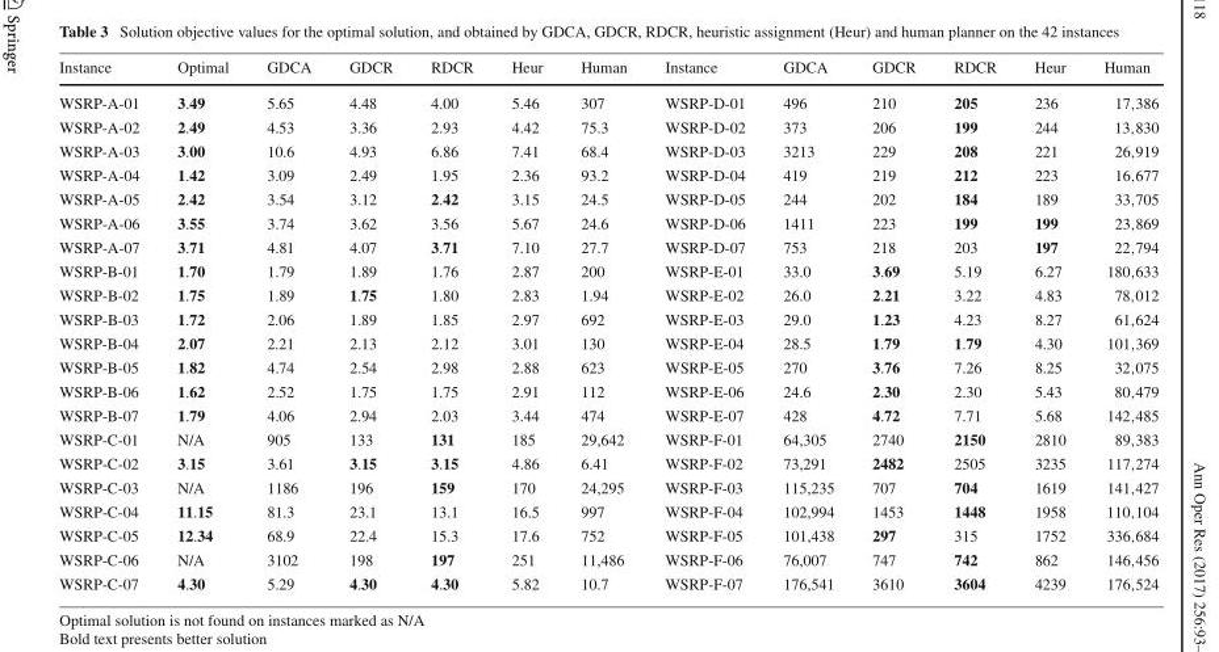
<table><thead><tr><td>Instance</td><td>Optimal</td><td>GDCA</td><td>GDCR</td><td>RDCR</td><td>Heur</td><td>Human</td><td>Instance</td><td>GDCA</td><td>GDCR</td><td>RDCR</td><td>Heur</td><td>Human</td></tr></thead><tbody><tr><td>WSRP-A-01</td><td>3.49</td><td>5.65</td><td>4.48</td><td>4.00</td><td>5.46</td><td>307</td><td>WSRP-D-01</td><td>496</td><td>210</td><td>205</td><td>236</td><td>17,386</td></tr><tr><td>WSRP-A-02</td><td>2.49</td><td>4.53</td><td>3.36</td><td>2.93</td><td>4.42</td><td>75.3</td><td>WSRP-D-02</td><td>373</td><td>206</td><td>199</td><td>244</td><td>13,830</td></tr><tr><td>WSRP-A-03</td><td>3.00</td><td>10.6</td><td>4.93</td><td>6.86</td><td>7.41</td><td>68.4</td><td>WSRP-D-03</td><td>3213</td><td>229</td><td>208</td><td>221</td><td>26,919</td></tr><tr><td>WSRP-A-04</td><td>1.42</td><td>3.09</td><td>2.49</td><td>1.95</td><td>2.36</td><td>93.2</td><td>WSRP-D-04</td><td>419</td><td>219</td><td>212</td><td>223</td><td>16,677</td></tr><tr><td>WSRP-A-05</td><td>2.42</td><td>3.54</td><td>3.12</td><td>2.42</td><td>3.15</td><td>24.5</td><td>WSRP-D-05</td><td>244</td><td>202</td><td>184</td><td>189</td><td>33,705</td></tr><tr><td>WSRP-A-06</td><td>3.55</td><td>3.74</td><td>3.62</td><td>3.56</td><td>5.67</td><td>24.6</td><td>WSRP-D-06</td><td>1411</td><td>223</td><td>199</td><td>199</td><td>23,869</td></tr><tr><td>WSRP-A-07</td><td>3.71</td><td>4.81</td><td>4.07</td><td>3.71</td><td>7.10</td><td>27.7</td><td>WSRP-D-07</td><td>753</td><td>218</td><td>203</td><td>197</td><td>22,794</td></tr><tr><td>WSRP-B-01</td><td>1.70</td><td>1.79</td><td>1.89</td><td>1.76</td><td>2.87</td><td>200</td><td>WSRP-E-01</td><td>33.0</td><td>3.69</td><td>5.19</td><td>6.27</td><td>180,633</td></tr><tr><td>WSRP-B-02</td><td>1.75</td><td>1.89</td><td>1.75</td><td>1.80</td><td>2.83</td><td>1.94</td><td>WSRP-E-02</td><td>26.0</td><td>2.21</td><td>3.22</td><td>4.83</td><td>78,012</td></tr><tr><td>WSRP-B-03</td><td>1.72</td><td>2.06</td><td>1.89</td><td>1.85</td><td>2.97</td><td>692</td><td>WSRP-E-03</td><td>29.0</td><td>1.23</td><td>4.23</td><td>8.27</td><td>61,624</td></tr><tr><td>WSRP-B-04</td><td>2.07</td><td>2.21</td><td>2.13</td><td>2.12</td><td>3.01</td><td>130</td><td>WSRP-E-04</td><td>28.5</td><td>1.79</td><td>1.79</td><td>4.30</td><td>101,369</td></tr><tr><td>WSRP-B-05</td><td>1.82</td><td>4.74</td><td>2.54</td><td>2.98</td><td>2.88</td><td>623</td><td>WSRP-E-05</td><td>270</td><td>3.76</td><td>7.26</td><td>8.25</td><td>32,075</td></tr><tr><td>WSRP-B-06</td><td>1.62</td><td>2.52</td><td>1.75</td><td>1.75</td><td>2.91</td><td>112</td><td>WSRP-E-06</td><td>24.6</td><td>2.30</td><td>2.30</td><td>5.43</td><td>80,479</td></tr><tr><td>WSRP-B-07</td><td>1.79</td><td>4.06</td><td>2.94</td><td>2.03</td><td>3.44</td><td>474</td><td>WSRP-E-07</td><td>428</td><td>4.72</td><td>7.71</td><td>5.68</td><td>142,485</td></tr><tr><td>WSRP-C-01</td><td>N/A</td><td>905</td><td>133</td><td>131</td><td>185</td><td>29,642</td><td>WSRP-F-01</td><td>64,305</td><td>2740</td><td>2150</td><td>2810</td><td>89,383</td></tr><tr><td>WSRP-C-02</td><td>3.15</td><td>3.61</td><td>3.15</td><td>3.15</td><td>4.86</td><td>6.41</td><td>WSRP-F-02</td><td>73,291</td><td>2482</td><td>2505</td><td>3235</td><td>117,274</td></tr><tr><td>WSRP-C-03</td><td>N/A</td><td>1186</td><td>196</td><td>159</td><td>170</td><td>24,295</td><td>WSRP-F-03</td><td>115,235</td><td>707</td><td>704</td><td>1619</td><td>141,427</td></tr><tr><td>WSRP-C-04</td><td>11.15</td><td>81.3</td><td>23.1</td><td>13.1</td><td>16.5</td><td>997</td><td>WSRP-F-04</td><td>102,994</td><td>1453</td><td>1448</td><td>1958</td><td>110,104</td></tr><tr><td>WSRP-C-05</td><td>12.34</td><td>68.9</td><td>22.4</td><td>15.3</td><td>17.6</td><td>752</td><td>WSRP-F-05</td><td>101,438</td><td>297</td><td>315</td><td>1752</td><td>336,684</td></tr><tr><td>WSRP-C-06</td><td>N/A</td><td>3102</td><td>198</td><td>197</td><td>251</td><td>11,486</td><td>WSRP-F-06</td><td>76,007</td><td>747</td><td>742</td><td>862</td><td>146,456</td></tr><tr><td>WSRP-C-07</td><td>4.30</td><td>5.29</td><td>4.30</td><td>4.30</td><td>5.82</td><td>10.7</td><td>WSRP-F-07</td><td>176,541</td><td>3610</td><td>3604</td><td>4239</td><td>176,524</td></tr></tbody></table>